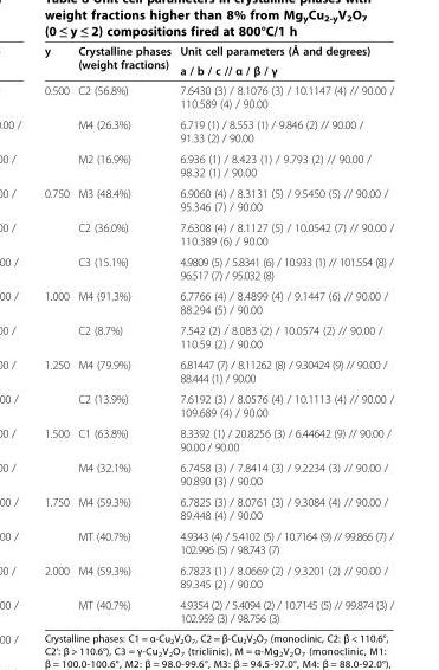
<table><thead><tr><td rowspan="2">y</td><td rowspan="2">Crystalline phases (weight fractions)</td><td rowspan="2">Unit cell parameters (Å and degrees) a / b / c // α / β / γ</td></tr><tr></tr></thead><tbody><tr><td rowspan="3">0.500</td><td>C2 (56.8%)</td><td>7.6430 (3) / 8.1076 (3) / 10.1147 (4) // 90.00 / 110.589 (4) / 90.00</td></tr><tr><td>M4 (26.3%)</td><td>6.719 (1) / 8.553 (1) / 9.846 (2) // 90.00 / 91.33 (2) / 90.00</td></tr><tr><td>M2 (16.9%)</td><td>6.936 (1) / 8.423 (1) / 9.793 (2) // 90.00 / 98.32 (1) / 90.00</td></tr><tr><td rowspan="3">0.750</td><td>M3 (48.4%)</td><td>6.9060 (4) / 8.3131 (5) / 9.5450 (5) // 90.00 / 95.346 (7) / 90.00</td></tr><tr><td>C2 (36.0%)</td><td>7.6308 (4) / 8.1127 (5) / 10.0542 (7) // 90.00 / 110.389 (6) / 90.00</td></tr><tr><td>C3 (15.1%)</td><td>4.9809 (5) / 5.8341 (6) / 10.933 (1) // 101.554 (8) / 96.517 (7) / 95.032 (8)</td></tr><tr><td rowspan="2">1.000</td><td>M4 (91.3%)</td><td>6.7766 (4) / 8.4899 (4) / 9.1447 (6) // 90.00 / 88.294 (5) / 90.00</td></tr><tr><td>C2 (8.7%)</td><td>7.542 (2) / 8.083 (2) / 10.0574 (2) // 90.00 / 110.59 (2) / 90.00</td></tr><tr><td rowspan="2">1.250</td><td>M4 (79.9%)</td><td>6.81447 (7) / 8.11262 (8) / 9.30424 (9) // 90.00 / 88.444 (1) / 90.00</td></tr><tr><td>C2 (13.9%)</td><td>7.6192 (3) / 8.0576 (4) / 10.1113 (4) // 90.00 / 109.689 (4) / 90.00</td></tr><tr><td rowspan="2">1.500</td><td>C1 (63.8%)</td><td>8.3392 (1) / 20.8256 (3) / 6.44642 (9) // 90.00 / 90.00 / 90.00</td></tr><tr><td>M4 (32.1%)</td><td>6.7458 (3) / 7.8414 (3) / 9.2234 (3) // 90.00 / 90.890 (3) / 90.00</td></tr><tr><td rowspan="2">1.750</td><td>M4 (59.3%)</td><td>6.7825 (3) / 8.0761 (3) / 9.3084 (4) // 90.00 / 89.448 (4) / 90.00</td></tr><tr><td>MT (40.7%)</td><td>4.9343 (4) / 5.4102 (5) / 10.7164 (9) // 99.866 (7) / 102.996 (5) / 98.743 (7)</td></tr><tr><td rowspan="2">2.000</td><td>M4 (59.3%)</td><td>6.7823 (1) / 8.0669 (2) / 9.3201 (2) // 90.00 / 89.345 (2) / 90.00</td></tr><tr><td>MT (40.7%)</td><td>4.9354 (2) / 5.4094 (2) / 10.7145 (5) // 99.874 (3) / 102.959 (3) / 98.756 (3)</td></tr></tbody></table>